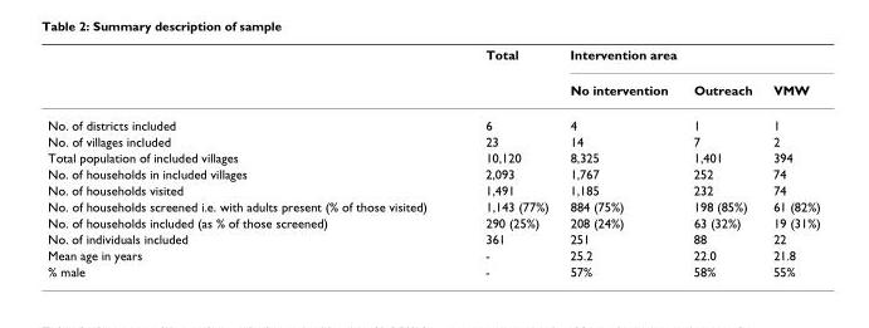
<table><thead><tr><td rowspan="2"></td><td rowspan="2">Total</td><td colspan="3">Intervention area</td></tr><tr><td>No intervention</td><td>Outreach</td><td>VMW</td></tr></thead><tbody><tr><td>No. of districts included</td><td>6</td><td>4</td><td>1</td><td>1</td></tr><tr><td>No. of villages included</td><td>23</td><td>14</td><td>7</td><td>2</td></tr><tr><td>Total population of included villages</td><td>10,120</td><td>8,325</td><td>1,401</td><td>394</td></tr><tr><td>No. of households in included villages</td><td>2,093</td><td>1,767</td><td>252</td><td>74</td></tr><tr><td>No. of households visited</td><td>1,491</td><td>1,185</td><td>232</td><td>74</td></tr><tr><td>No. of households screened i.e. with adults present (% of those visited)</td><td>1,143 (77%)</td><td>884 (75%)</td><td>198 (85%)</td><td>61 (82%)</td></tr><tr><td>No. of households included (as % of those screened)</td><td>290 (25%)</td><td>208 (24%)</td><td>63 (32%)</td><td>19 (31%)</td></tr><tr><td>No. of individuals included</td><td>361</td><td>251</td><td>88</td><td>22</td></tr><tr><td>Mean age in years</td><td>-</td><td>25.2</td><td>22.0</td><td>21.8</td></tr><tr><td>% male</td><td>-</td><td>57%</td><td>58%</td><td>55%</td></tr></tbody></table>